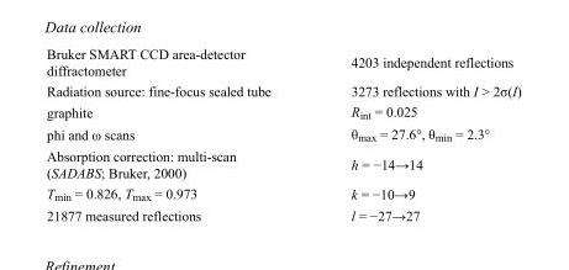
<table><tbody><tr><td>Bruker SMART CCD area-detector diffractometer</td><td>4203 independent reflections</td></tr><tr><td>Radiation source: fine-focus sealed tube</td><td>3273 reflections with I &gt; 2σ(I)</td></tr><tr><td>graphite</td><td>R<sub>int</sub> = 0.025</td></tr><tr><td>phi and ω scans</td><td>θ<sub>max</sub> = 27.6°, θ<sub>min</sub> = 2.3°</td></tr><tr><td>Absorption correction: multi-scan (SADABS; Bruker, 2000)</td><td>h = −14→14</td></tr><tr><td>T<sub>min</sub> = 0.826, T<sub>max</sub> = 0.973</td><td>k = −10→9</td></tr><tr><td>21877 measured reflections</td><td>l = −27→27</td></tr></tbody></table>